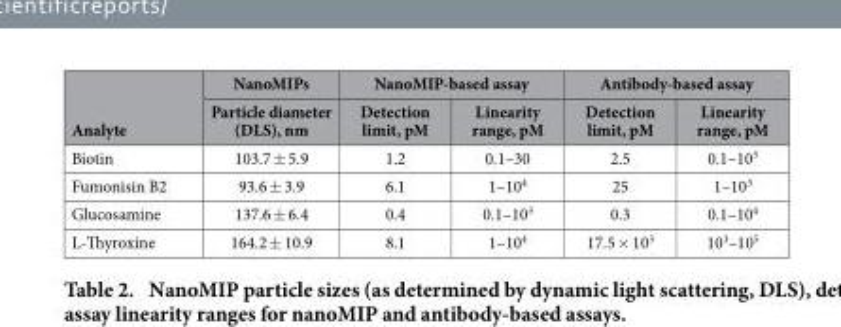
<table><thead><tr><td rowspan="2">Analyte</td><td rowspan="2">NanoMIPs Particle diameter (DLS), nm</td><td colspan="2">NanoMIP-based assay</td><td colspan="2">Antibody-based assay</td></tr><tr><td>Detection limit, pM</td><td>Linearity range, pM</td><td>Detection limit, pM</td><td>Linearity range, pM</td></tr></thead><tbody><tr><td>Biotin</td><td>103.7 ± 5.9</td><td>1.2</td><td>0.1–30</td><td>2.5</td><td>0.1–10<sup>3</sup></td></tr><tr><td>Fumonisin B2</td><td>93.6 ± 3.9</td><td>6.1</td><td>1–10<sup>4</sup></td><td>25</td><td>1–10<sup>3</sup></td></tr><tr><td>Glucosamine</td><td>137.6 ± 6.4</td><td>0.4</td><td>0.1–10<sup>3</sup></td><td>0.3</td><td>0.1–10<sup>4</sup></td></tr><tr><td>L-Thyroxine</td><td>164.2 ± 10.9</td><td>8.1</td><td>1–10<sup>4</sup></td><td>17.5 × 10<sup>3</sup></td><td>10<sup>3</sup>–10<sup>5</sup></td></tr></tbody></table>